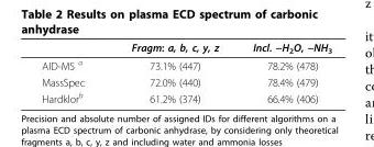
<table><thead><tr><td></td><td>Fragm: a, b, c, y, z</td><td>Incl. −H<sub>2</sub>O, −NH<sub>3</sub></td></tr></thead><tbody><tr><td>AID-MS <sup>a</sup></td><td>73.1% (447)</td><td>78.2% (478)</td></tr><tr><td>MassSpec</td><td>72.0% (440)</td><td>78.4% (479)</td></tr><tr><td>Hardklor<sup>b</sup></td><td>61.2% (374)</td><td>66.4% (406)</td></tr></tbody></table>